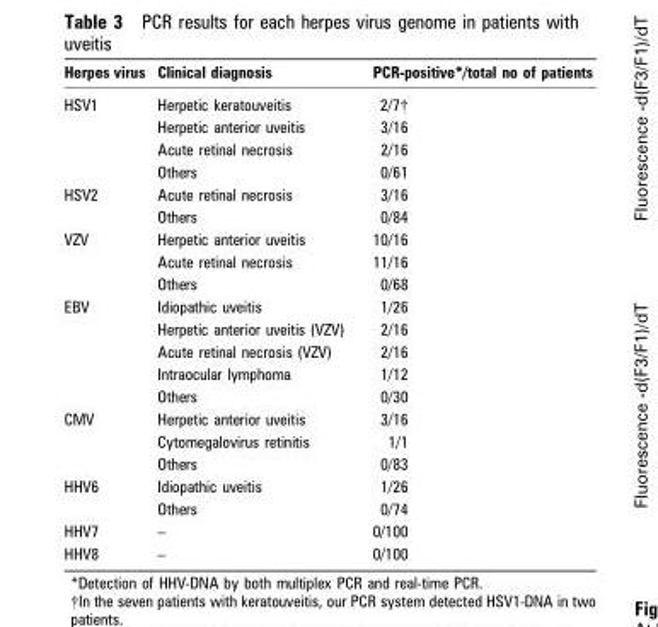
<table><thead><tr><td>Herpes virus</td><td>Clinical diagnosis</td><td>PCR-positive*/total no of patients</td></tr></thead><tbody><tr><td rowspan="4">HSV1</td><td>Herpetic keratouveitis</td><td>2/7†</td></tr><tr><td>Herpetic anterior uveitis</td><td>3/16</td></tr><tr><td>Acute retinal necrosis</td><td>2/16</td></tr><tr><td>Others</td><td>0/61</td></tr><tr><td rowspan="2">HSV2</td><td>Acute retinal necrosis</td><td>3/16</td></tr><tr><td>Others</td><td>0/84</td></tr><tr><td rowspan="3">VZV</td><td>Herpetic anterior uveitis</td><td>10/16</td></tr><tr><td>Acute retinal necrosis</td><td>11/16</td></tr><tr><td>Others</td><td>0/68</td></tr><tr><td rowspan="5">EBV</td><td>Idiopathic uveitis</td><td>1/26</td></tr><tr><td>Herpetic anterior uveitis (VZV)</td><td>2/16</td></tr><tr><td>Acute retinal necrosis (VZV)</td><td>2/16</td></tr><tr><td>Intraocular lymphoma</td><td>1/12</td></tr><tr><td>Others</td><td>0/30</td></tr><tr><td rowspan="3">CMV</td><td>Herpetic anterior uveitis</td><td>3/16</td></tr><tr><td>Cytomegalovirus retinitis</td><td>1/1</td></tr><tr><td>Others</td><td>0/83</td></tr><tr><td rowspan="2">HHV6</td><td>Idiopathic uveitis</td><td>1/26</td></tr><tr><td>Others</td><td>0/74</td></tr><tr><td>HHV7</td><td>–</td><td>0/100</td></tr><tr><td>HHV8</td><td>–</td><td>0/100</td></tr></tbody></table>